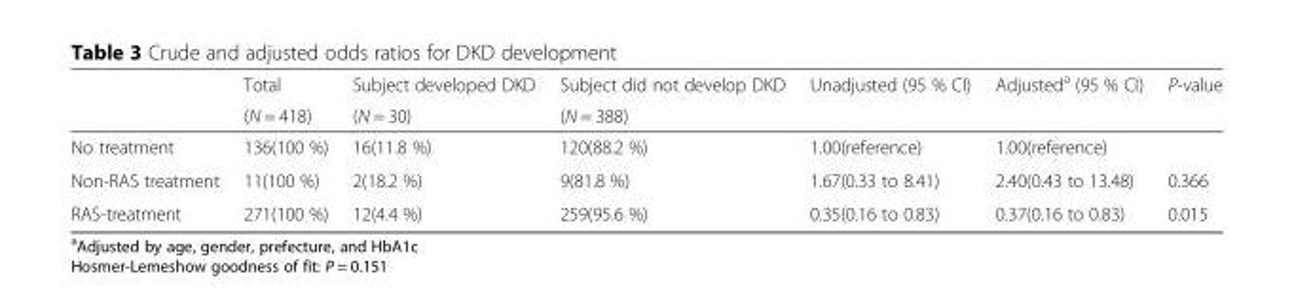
<table><thead><tr><td rowspan="2"></td><td rowspan="2">Total (N = 418)</td><td rowspan="2">Subject developed DKD (N = 30)</td><td rowspan="2">Subject did not develop DKD (N = 388)</td><td rowspan="2">Unadjusted (95 % CI)</td><td rowspan="2">Adjusted<sup>a</sup> (95 % CI)</td><td rowspan="2">P-value</td></tr><tr></tr></thead><tbody><tr><td>No treatment</td><td>136(100 %)</td><td>16(11.8 %)</td><td>120(88.2 %)</td><td>1.00(reference)</td><td>1.00(reference)</td><td></td></tr><tr><td>Non-RAS treatment</td><td>11(100 %)</td><td>2(18.2 %)</td><td>9(81.8 %)</td><td>1.67(0.33 to 8.41)</td><td>2.40(0.43 to 13.48)</td><td>0.366</td></tr><tr><td>RAS-treatment</td><td>271(100 %)</td><td>12(4.4 %)</td><td>259(95.6 %)</td><td>0.35(0.16 to 0.83)</td><td>0.37(0.16 to 0.83)</td><td>0.015</td></tr></tbody></table>